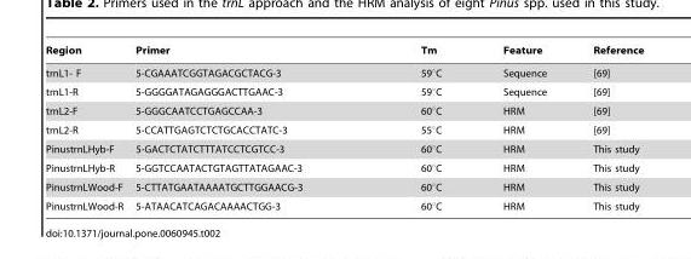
<table><thead><tr><td>Region</td><td>Primer</td><td>Tm</td><td>Feature</td><td>Reference</td></tr></thead><tbody><tr><td>trnL1- F</td><td>5-CGAAATCGGTAGACGCTACG-3</td><td>59°C</td><td>Sequence</td><td>[69]</td></tr><tr><td>trnL1-R</td><td>5-GGGGATAGAGGGACTTGAAC-3</td><td>59°C</td><td>Sequence</td><td>[69]</td></tr><tr><td>trnL2-F</td><td>5-GGGCAATCCTGAGCCAA-3</td><td>60°C</td><td>HRM</td><td>[69]</td></tr><tr><td>trnL2-R</td><td>5-CCATTGAGTCTCTGCACCTATC-3</td><td>55°C</td><td>HRM</td><td>[69]</td></tr><tr><td>PinustrnLHyb-F</td><td>5-GACTCTATCTTTATCCTCGTCC-3</td><td>60°C</td><td>HRM</td><td>This study</td></tr><tr><td>PinustrnLHyb-R</td><td>5-GGTCCAATACTGTAGTTATAGAAC-3</td><td>60°C</td><td>HRM</td><td>This study</td></tr><tr><td>PinustrnLWood-F</td><td>5-CTTATGAATAAAATGCTTGGAACG-3</td><td>60°C</td><td>HRM</td><td>This study</td></tr><tr><td>PinustrnLWood-R</td><td>5-ATAACATCAGACAAAACTGG-3</td><td>60°C</td><td>HRM</td><td>This study</td></tr></tbody></table>